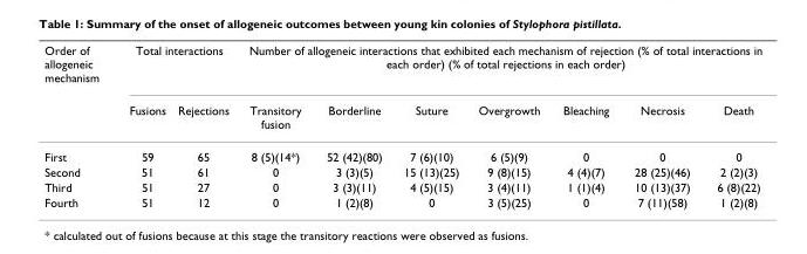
<table><thead><tr><td rowspan="2">Order of allogeneic mechanism</td><td colspan="2">Total interactions</td><td colspan="7">Number of allogeneic interactions that exhibited each mechanism of rejection (% of total interactions in each order) (% of total rejections in each order)</td></tr><tr><td>Fusions</td><td>Rejections</td><td>Transitory fusion</td><td>Borderline</td><td>Suture</td><td>Overgrowth</td><td>Bleaching</td><td>Necrosis</td><td>Death</td></tr></thead><tbody><tr><td>First</td><td>59</td><td>65</td><td>8 (5)(14*)</td><td>52 (42)(80)</td><td>7 (6)(10)</td><td>6 (5)(9)</td><td>0</td><td>0</td><td>0</td></tr><tr><td>Second</td><td>51</td><td>61</td><td>0</td><td>3 (3)(5)</td><td>15 (13)(25)</td><td>9 (8)(15)</td><td>4 (4)(7)</td><td>28 (25)(46)</td><td>2 (2)(3)</td></tr><tr><td>Third</td><td>51</td><td>27</td><td>0</td><td>3 (3)(11)</td><td>4 (5)(15)</td><td>3 (4)(11)</td><td>1 (1)(4)</td><td>10 (13)(37)</td><td>6 (8)(22)</td></tr><tr><td>Fourth</td><td>51</td><td>12</td><td>0</td><td>1 (2)(8)</td><td>0</td><td>3 (5)(25)</td><td>0</td><td>7 (11)(58)</td><td>1 (2)(8)</td></tr></tbody></table>